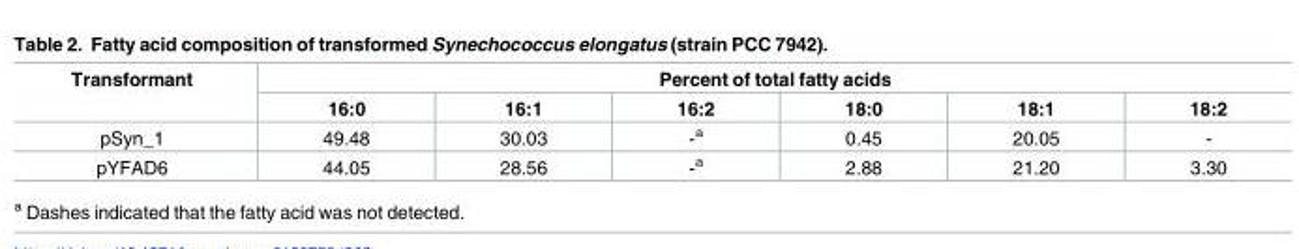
<table><thead><tr><td rowspan="2">Transformant</td><td colspan="6">Percent of total fatty acids</td></tr><tr><td>16:0</td><td>16:1</td><td>16:2</td><td>18:0</td><td>18:1</td><td>18:2</td></tr></thead><tbody><tr><td>pSyn_1</td><td>49.48</td><td>30.03</td><td>-<sup>a</sup></td><td>0.45</td><td>20.05</td><td>-</td></tr><tr><td>pYFAD6</td><td>44.05</td><td>28.56</td><td>-<sup>a</sup></td><td>2.88</td><td>21.20</td><td>3.30</td></tr></tbody></table>